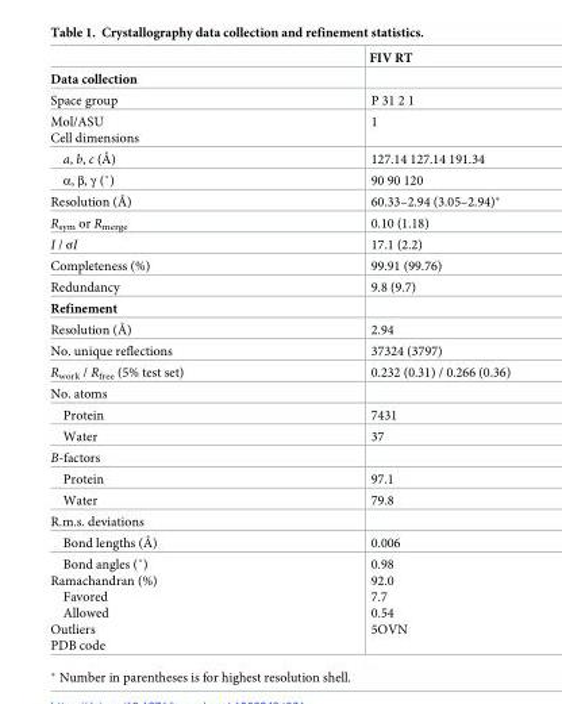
<table><thead><tr><td></td><td>FIV RT</td></tr></thead><tbody><tr><td colspan="2">Data collection</td></tr><tr><td>Space group</td><td>P 31 2 1</td></tr><tr><td>Mol/ASU Cell dimensions</td><td>1</td></tr><tr><td>a, b, c (Å)</td><td>127.14 127.14 191.34</td></tr><tr><td>α, β, γ (˚)</td><td>90 90 120</td></tr><tr><td>Resolution (Å)</td><td>60.33–2.94 (3.05–2.94)*</td></tr><tr><td>R<sub>sym</sub> or R<sub>merge</sub></td><td>0.10 (1.18)</td></tr><tr><td>I / σI</td><td>17.1 (2.2)</td></tr><tr><td>Completeness (%)</td><td>99.91 (99.76)</td></tr><tr><td>Redundancy</td><td>9.8 (9.7)</td></tr><tr><td colspan="2">Refinement</td></tr><tr><td>Resolution (Å)</td><td>2.94</td></tr><tr><td>No. unique reflections</td><td>37324 (3797)</td></tr><tr><td>R<sub>work</sub> / R<sub>free</sub> (5% test set)</td><td>0.232 (0.31) / 0.266 (0.36)</td></tr><tr><td colspan="2">No. atoms</td></tr><tr><td>Protein</td><td>7431</td></tr><tr><td>Water</td><td>37</td></tr><tr><td colspan="2">B-factors</td></tr><tr><td>Protein</td><td>97.1</td></tr><tr><td>Water</td><td>79.8</td></tr><tr><td colspan="2">R.m.s. deviations</td></tr><tr><td>Bond lengths (Å)</td><td>0.006</td></tr><tr><td>Bond angles (˚) Ramachandran (%) Favored Allowed Outliers PDB code</td><td>0.98 92.0 7.7 0.54 5OVN</td></tr></tbody></table>